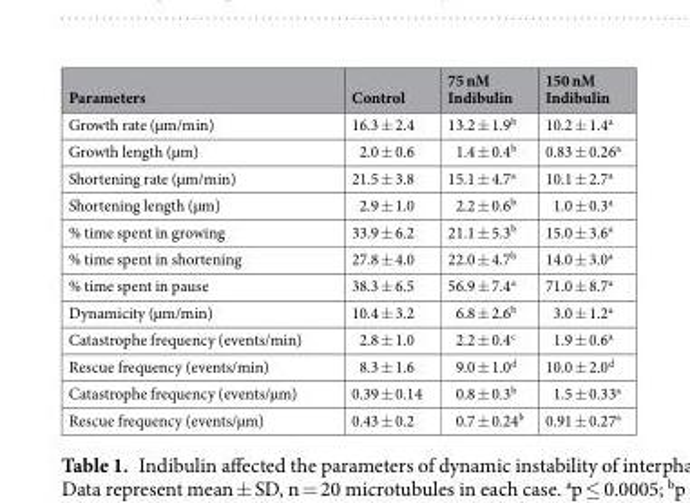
<table><thead><tr><td>Parameters</td><td>Control</td><td>75 nM Indibulin</td><td>150 nM Indibulin</td></tr></thead><tbody><tr><td>Growth rate (µm/min)</td><td>16.3 ± 2.4</td><td>13.2 ± 1.9<sup>b</sup></td><td>10.2 ± 1.4<sup>a</sup></td></tr><tr><td>Growth length (µm)</td><td>2.0 ± 0.6</td><td>1.4 ± 0.4<sup>b</sup></td><td>0.83 ± 0.26<sup>a</sup></td></tr><tr><td>Shortening rate (µm/min)</td><td>21.5 ± 3.8</td><td>15.1 ± 4.7<sup>a</sup></td><td>10.1 ± 2.7<sup>a</sup></td></tr><tr><td>Shortening length (µm)</td><td>2.9 ± 1.0</td><td>2.2 ± 0.6<sup>b</sup></td><td>1.0 ± 0.3<sup>a</sup></td></tr><tr><td>% time spent in growing</td><td>33.9 ± 6.2</td><td>21.1 ± 5.3<sup>b</sup></td><td>15.0 ± 3.6<sup>a</sup></td></tr><tr><td>% time spent in shortening</td><td>27.8 ± 4.0</td><td>22.0 ± 4.7<sup>b</sup></td><td>14.0 ± 3.0<sup>a</sup></td></tr><tr><td>% time spent in pause</td><td>38.3 ± 6.5</td><td>56.9 ± 7.4<sup>a</sup></td><td>71.0 ± 8.7<sup>a</sup></td></tr><tr><td>Dynamicity (µm/min)</td><td>10.4 ± 3.2</td><td>6.8 ± 2.6<sup>b</sup></td><td>3.0 ± 1.2<sup>a</sup></td></tr><tr><td>Catastrophe frequency (events/min)</td><td>2.8 ± 1.0</td><td>2.2 ± 0.4<sup>c</sup></td><td>1.9 ± 0.6<sup>a</sup></td></tr><tr><td>Rescue frequency (events/min)</td><td>8.3 ± 1.6</td><td>9.0 ± 1.0<sup>d</sup></td><td>10.0 ± 2.0<sup>d</sup></td></tr><tr><td>Catastrophe frequency (events/µm)</td><td>0.39 ± 0.14</td><td>0.8 ± 0.3<sup>b</sup></td><td>1.5 ± 0.33<sup>a</sup></td></tr><tr><td>Rescue frequency (events/µm)</td><td>0.43 ± 0.2</td><td>0.7 ± 0.24<sup>b</sup></td><td>0.91 ± 0.27<sup>a</sup></td></tr></tbody></table>